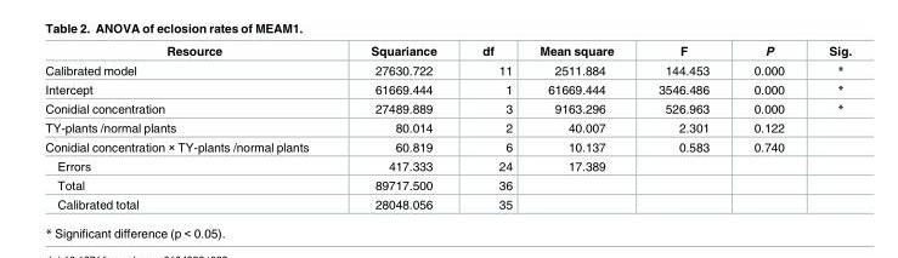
<table><thead><tr><td>Resource</td><td>Squariance</td><td>df</td><td>Mean square</td><td>F</td><td>P</td><td>Sig.</td></tr></thead><tbody><tr><td>Calibrated model</td><td>27630.722</td><td>11</td><td>2511.884</td><td>144.453</td><td>0.000</td><td>*</td></tr><tr><td>Intercept</td><td>61669.444</td><td>1</td><td>61669.444</td><td>3546.486</td><td>0.000</td><td>*</td></tr><tr><td>Conidial concentration</td><td>27489.889</td><td>3</td><td>9163.296</td><td>526.963</td><td>0.000</td><td>*</td></tr><tr><td>TY-plants /normal plants</td><td>80.014</td><td>2</td><td>40.007</td><td>2.301</td><td>0.122</td><td></td></tr><tr><td>Conidial concentration × TY-plants /normal plants</td><td>60.819</td><td>6</td><td>10.137</td><td>0.583</td><td>0.740</td><td></td></tr><tr><td>Errors</td><td>417.333</td><td>24</td><td>17.389</td><td></td><td></td><td></td></tr><tr><td>Total</td><td>89717.500</td><td>36</td><td></td><td></td><td></td><td></td></tr><tr><td>Calibrated total</td><td>28048.056</td><td>35</td><td></td><td></td><td></td><td></td></tr></tbody></table>